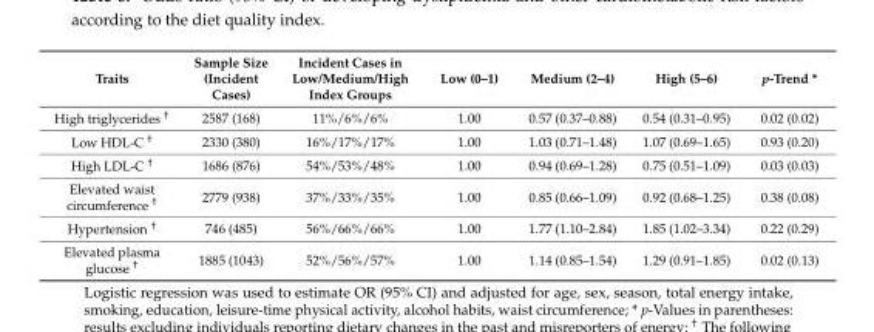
<table><thead><tr><td>Traits</td><td>Sample Size (Incident Cases)</td><td>Incident Cases in Low/Medium/High Index Groups</td><td>Low (0–1)</td><td>Medium (2–4)</td><td>High (5–6)</td><td>p-Trend *</td></tr></thead><tbody><tr><td>High triglycerides <sup>†</sup></td><td>2587 (168)</td><td>11%/6%/6%</td><td>1.00</td><td>0.57 (0.37–0.88)</td><td>0.54 (0.31–0.95)</td><td>0.02 (0.02)</td></tr><tr><td>Low HDL-C <sup>†</sup></td><td>2330 (380)</td><td>16%/17%/17%</td><td>1.00</td><td>1.03 (0.71–1.48)</td><td>1.07 (0.69–1.65)</td><td>0.93 (0.20)</td></tr><tr><td>High LDL-C <sup>†</sup></td><td>1686 (876)</td><td>54%/53%/48%</td><td>1.00</td><td>0.94 (0.69–1.28)</td><td>0.75 (0.51–1.09)</td><td>0.03 (0.03)</td></tr><tr><td>Elevated waist circumference <sup>†</sup></td><td>2779 (938)</td><td>37%/33%/35%</td><td>1.00</td><td>0.85 (0.66–1.09)</td><td>0.92 (0.68–1.25)</td><td>0.38 (0.08)</td></tr><tr><td>Hypertension <sup>†</sup></td><td>746 (485)</td><td>56%/66%/66%</td><td>1.00</td><td>1.77 (1.10–2.84)</td><td>1.85 (1.02–3.34)</td><td>0.22 (0.29)</td></tr><tr><td>Elevated plasma glucose <sup>†</sup></td><td>1885 (1043)</td><td>52%/56%/57%</td><td>1.00</td><td>1.14 (0.85–1.54)</td><td>1.29 (0.91–1.85)</td><td>0.02 (0.13)</td></tr></tbody></table>